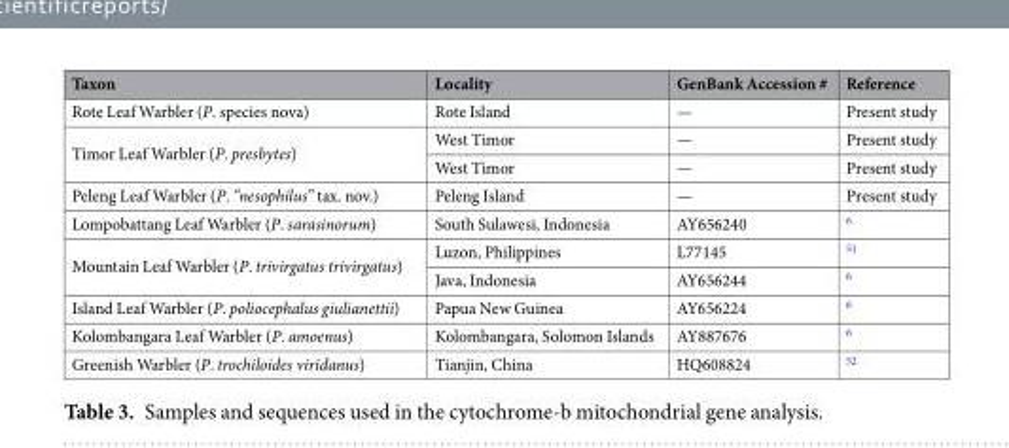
<table><thead><tr><td>Taxon</td><td>Locality</td><td>GenBank Accession #</td><td>Reference</td></tr></thead><tbody><tr><td>Rote Leaf Warbler (P. species nova)</td><td>Rote Island</td><td>—</td><td>Present study</td></tr><tr><td rowspan="2">Timor Leaf Warbler (P. presbytes)</td><td>West Timor</td><td>—</td><td>Present study</td></tr><tr><td>West Timor</td><td>—</td><td>Present study</td></tr><tr><td>Peleng Leaf Warbler (P. “nesophilus” tax. nov.)</td><td>Peleng Island</td><td>—</td><td>Present study</td></tr><tr><td>Lompobattang Leaf Warbler (P. sarasinorum)</td><td>South Sulawesi, Indonesia</td><td>AY656240</td><td><sup>6</sup></td></tr><tr><td rowspan="2">Mountain Leaf Warbler (P. trivirgatus trivirgatus)</td><td>Luzon, Philippines</td><td>L77145</td><td><sup>51</sup></td></tr><tr><td>Java, Indonesia</td><td>AY656244</td><td><sup>6</sup></td></tr><tr><td>Island Leaf Warbler (P. poliocephalus giulianettii)</td><td>Papua New Guinea</td><td>AY656224</td><td><sup>6</sup></td></tr><tr><td>Kolombangara Leaf Warbler (P. amoenus)</td><td>Kolombangara, Solomon Islands</td><td>AY887676</td><td><sup>6</sup></td></tr><tr><td>Greenish Warbler (P. trochiloides viridanus)</td><td>Tianjin, China</td><td>HQ608824</td><td><sup>52</sup></td></tr></tbody></table>